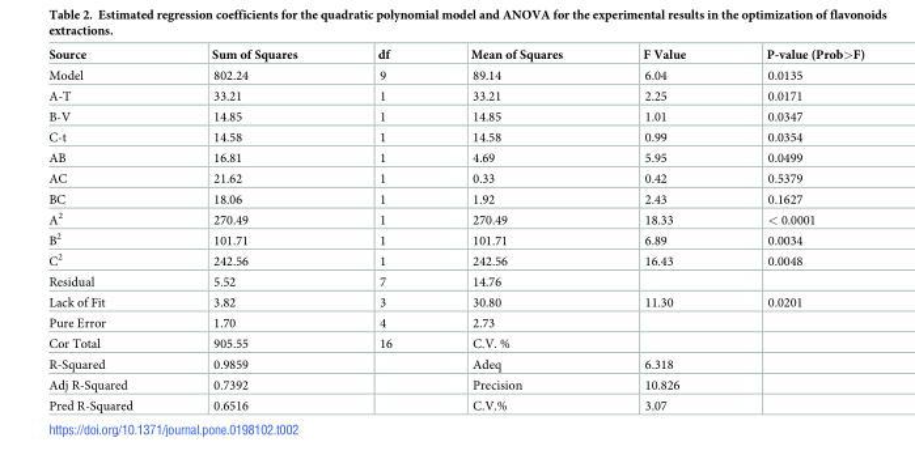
<table><thead><tr><td>Source</td><td>Sum of Squares</td><td>df</td><td>Mean of Squares</td><td>F Value</td><td>P-value (Prob&gt;F)</td></tr></thead><tbody><tr><td>Model</td><td>802.24</td><td>9</td><td>89.14</td><td>6.04</td><td>0.0135</td></tr><tr><td>A-T</td><td>33.21</td><td>1</td><td>33.21</td><td>2.25</td><td>0.0171</td></tr><tr><td>B-V</td><td>14.85</td><td>1</td><td>14.85</td><td>1.01</td><td>0.0347</td></tr><tr><td>C-t</td><td>14.58</td><td>1</td><td>14.58</td><td>0.99</td><td>0.0354</td></tr><tr><td>AB</td><td>16.81</td><td>1</td><td>4.69</td><td>5.95</td><td>0.0499</td></tr><tr><td>AC</td><td>21.62</td><td>1</td><td>0.33</td><td>0.42</td><td>0.5379</td></tr><tr><td>BC</td><td>18.06</td><td>1</td><td>1.92</td><td>2.43</td><td>0.1627</td></tr><tr><td>A<sup>2</sup></td><td>270.49</td><td>1</td><td>270.49</td><td>18.33</td><td>&lt; 0.0001</td></tr><tr><td>B<sup>2</sup></td><td>101.71</td><td>1</td><td>101.71</td><td>6.89</td><td>0.0034</td></tr><tr><td>C<sup>2</sup></td><td>242.56</td><td>1</td><td>242.56</td><td>16.43</td><td>0.0048</td></tr><tr><td>Residual</td><td>5.52</td><td>7</td><td>14.76</td><td></td><td></td></tr><tr><td>Lack of Fit</td><td>3.82</td><td>3</td><td>30.80</td><td>11.30</td><td>0.0201</td></tr><tr><td>Pure Error</td><td>1.70</td><td>4</td><td>2.73</td><td></td><td></td></tr><tr><td>Cor Total</td><td>905.55</td><td>16</td><td>C.V. %</td><td></td><td></td></tr><tr><td>R-Squared</td><td>0.9859</td><td></td><td>Adeq</td><td>6.318</td><td></td></tr><tr><td>Adj R-Squared</td><td>0.7392</td><td></td><td>Precision</td><td>10.826</td><td></td></tr><tr><td>Pred R-Squared</td><td>0.6516</td><td></td><td>C.V.%</td><td>3.07</td><td></td></tr></tbody></table>